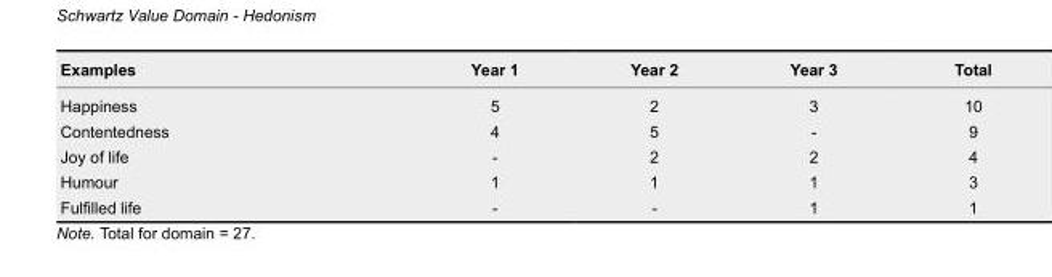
<table><thead><tr><td>Examples</td><td>Year 1</td><td>Year 2</td><td>Year 3</td><td>Total</td></tr></thead><tbody><tr><td>Happiness</td><td>5</td><td>2</td><td>3</td><td>10</td></tr><tr><td>Contentedness</td><td>4</td><td>5</td><td>-</td><td>9</td></tr><tr><td>Joy of life</td><td>-</td><td>2</td><td>2</td><td>4</td></tr><tr><td>Humour</td><td>1</td><td>1</td><td>1</td><td>3</td></tr><tr><td>Fulfilled life</td><td>-</td><td>-</td><td>1</td><td>1</td></tr></tbody></table>